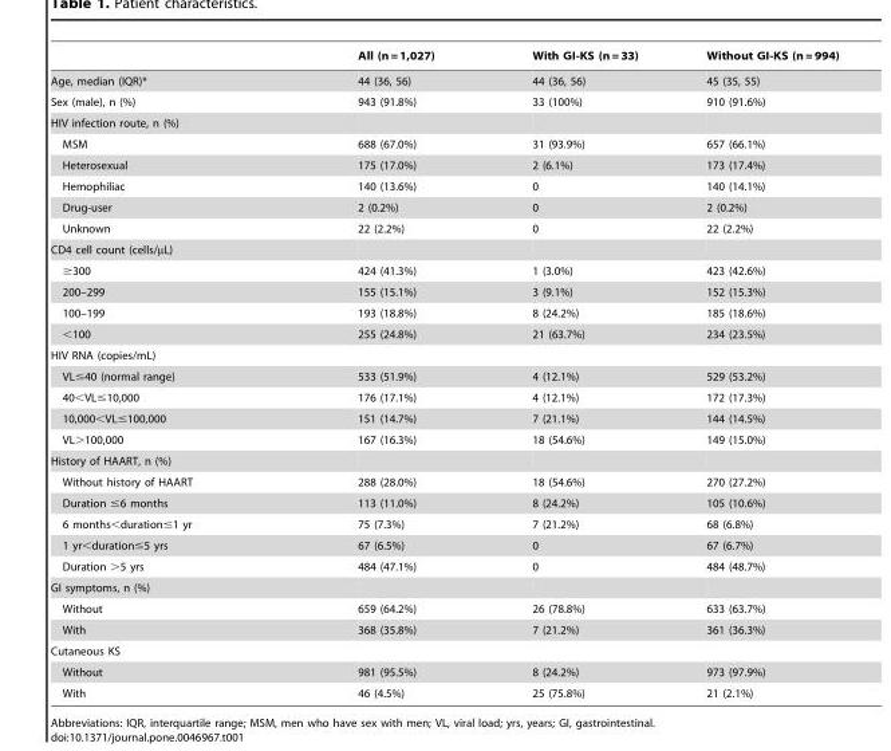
<table><thead><tr><td></td><td>All (n = 1,027)</td><td>With GI-KS (n = 33)</td><td>Without GI-KS (n = 994)</td></tr></thead><tbody><tr><td>Age, median (IQR)*</td><td>44 (36, 56)</td><td>44 (36, 56)</td><td>45 (35, 55)</td></tr><tr><td>Sex (male), n (%)</td><td>943 (91.8%)</td><td>33 (100%)</td><td>910 (91.6%)</td></tr><tr><td colspan="4">HIV infection route, n (%)</td></tr><tr><td>MSM</td><td>688 (67.0%)</td><td>31 (93.9%)</td><td>657 (66.1%)</td></tr><tr><td>Heterosexual</td><td>175 (17.0%)</td><td>2 (6.1%)</td><td>173 (17.4%)</td></tr><tr><td>Hemophiliac</td><td>140 (13.6%)</td><td>0</td><td>140 (14.1%)</td></tr><tr><td>Drug-user</td><td>2 (0.2%)</td><td>0</td><td>2 (0.2%)</td></tr><tr><td>Unknown</td><td>22 (2.2%)</td><td>0</td><td>22 (2.2%)</td></tr><tr><td colspan="4">CD4 cell count (cells/µL)</td></tr><tr><td>≥300</td><td>424 (41.3%)</td><td>1 (3.0%)</td><td>423 (42.6%)</td></tr><tr><td>200–299</td><td>155 (15.1%)</td><td>3 (9.1%)</td><td>152 (15.3%)</td></tr><tr><td>100–199</td><td>193 (18.8%)</td><td>8 (24.2%)</td><td>185 (18.6%)</td></tr><tr><td>&lt;100</td><td>255 (24.8%)</td><td>21 (63.7%)</td><td>234 (23.5%)</td></tr><tr><td colspan="4">HIV RNA (copies/mL)</td></tr><tr><td>VL≤40 (normal range)</td><td>533 (51.9%)</td><td>4 (12.1%)</td><td>529 (53.2%)</td></tr><tr><td>40&lt;VL≤10,000</td><td>176 (17.1%)</td><td>4 (12.1%)</td><td>172 (17.3%)</td></tr><tr><td>10,000&lt;VL≤100,000</td><td>151 (14.7%)</td><td>7 (21.1%)</td><td>144 (14.5%)</td></tr><tr><td>VL&gt;100,000</td><td>167 (16.3%)</td><td>18 (54.6%)</td><td>149 (15.0%)</td></tr><tr><td colspan="4">History of HAART, n (%)</td></tr><tr><td>Without history of HAART</td><td>288 (28.0%)</td><td>18 (54.6%)</td><td>270 (27.2%)</td></tr><tr><td>Duration ≤6 months</td><td>113 (11.0%)</td><td>8 (24.2%)</td><td>105 (10.6%)</td></tr><tr><td>6 months&lt;duration≤1 yr</td><td>75 (7.3%)</td><td>7 (21.2%)</td><td>68 (6.8%)</td></tr><tr><td>1 yr&lt;duration≤5 yrs</td><td>67 (6.5%)</td><td>0</td><td>67 (6.7%)</td></tr><tr><td>Duration &gt;5 yrs</td><td>484 (47.1%)</td><td>0</td><td>484 (48.7%)</td></tr><tr><td colspan="4">GI symptoms, n (%)</td></tr><tr><td>Without</td><td>659 (64.2%)</td><td>26 (78.8%)</td><td>633 (63.7%)</td></tr><tr><td>With</td><td>368 (35.8%)</td><td>7 (21.2%)</td><td>361 (36.3%)</td></tr><tr><td colspan="4">Cutaneous KS</td></tr><tr><td>Without</td><td>981 (95.5%)</td><td>8 (24.2%)</td><td>973 (97.9%)</td></tr><tr><td>With</td><td>46 (4.5%)</td><td>25 (75.8%)</td><td>21 (2.1%)</td></tr></tbody></table>